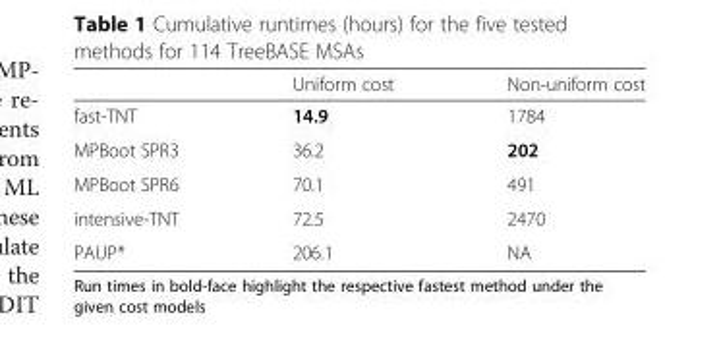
<table><thead><tr><td></td><td>Uniform cost</td><td>Non-uniform cost</td></tr></thead><tbody><tr><td>fast-TNT</td><td>14.9</td><td>1784</td></tr><tr><td>MPBoot SPR3</td><td>36.2</td><td>202</td></tr><tr><td>MPBoot SPR6</td><td>70.1</td><td>491</td></tr><tr><td>intensive-TNT</td><td>72.5</td><td>2470</td></tr><tr><td>PAUP*</td><td>206.1</td><td>NA</td></tr></tbody></table>